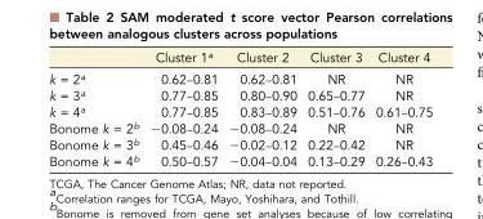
<table><thead><tr><td></td><td>Cluster 1<sup>a</sup></td><td>Cluster 2</td><td>Cluster 3</td><td>Cluster 4</td></tr></thead><tbody><tr><td>k = 2<sup>a</sup></td><td>0.62–0.81</td><td>0.62–0.81</td><td>NR</td><td>NR</td></tr><tr><td>k = 3<sup>a</sup></td><td>0.77–0.85</td><td>0.80–0.90</td><td>0.65–0.77</td><td>NR</td></tr><tr><td>k = 4<sup>a</sup></td><td>0.77–0.85</td><td>0.83–0.89</td><td>0.51–0.76</td><td>0.61–0.75</td></tr><tr><td>Bonome k = 2<sup>b</sup></td><td>−0.08–0.24</td><td>−0.08–0.24</td><td>NR</td><td>NR</td></tr><tr><td>Bonome k = 3<sup>b</sup></td><td>0.45–0.46</td><td>−0.02–0.12</td><td>0.22–0.42</td><td>NR</td></tr><tr><td>Bonome k = 4<sup>b</sup></td><td>0.50–0.57</td><td>−0.04–0.04</td><td>0.13–0.29</td><td>0.26–0.43</td></tr></tbody></table>